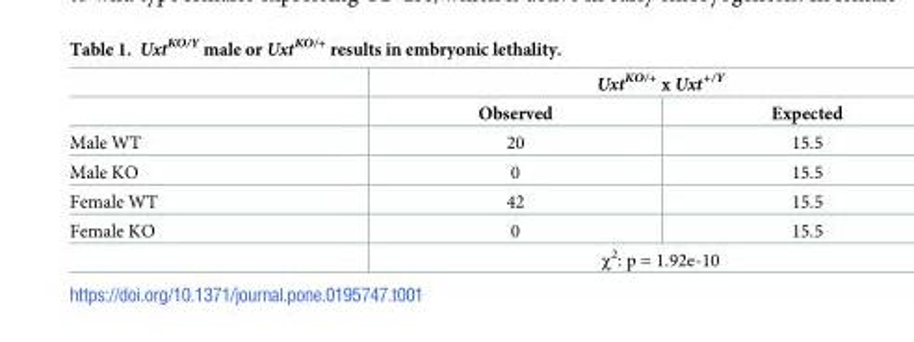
<table><thead><tr><td rowspan="2"></td><td colspan="2">Uxt<sup>KO/+</sup> x Uxt<sup>+/Y</sup></td></tr><tr><td>Observed</td><td>Expected</td></tr></thead><tbody><tr><td>Male WT</td><td>20</td><td>15.5</td></tr><tr><td>Male KO</td><td>0</td><td>15.5</td></tr><tr><td>Female WT</td><td>42</td><td>15.5</td></tr><tr><td rowspan="2">Female KO</td><td>0</td><td>15.5</td></tr><tr><td colspan="2">χ<sup>2</sup>: p = 1.92e-10</td></tr></tbody></table>